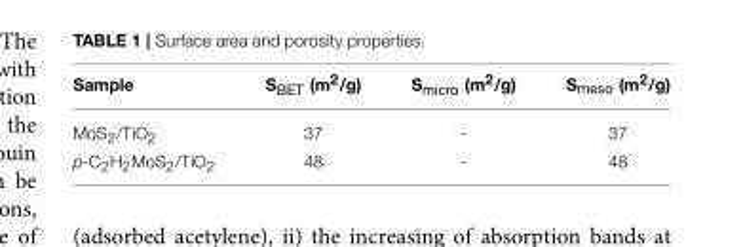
<table><thead><tr><td>Sample</td><td>S<sub>BET</sub> (m<sup>2</sup>/g)</td><td>S<sub>micro</sub> (m<sup>2</sup>/g)</td><td>S<sub>meso</sub> (m<sup>2</sup>/g)</td></tr></thead><tbody><tr><td>MoS<sub>2</sub>/TiO<sub>2</sub></td><td>37</td><td>-</td><td>37</td></tr><tr><td>p-C<sub>2</sub>H<sub>2</sub>MoS<sub>2</sub>/TiO<sub>2</sub></td><td>48</td><td>-</td><td>48</td></tr></tbody></table>